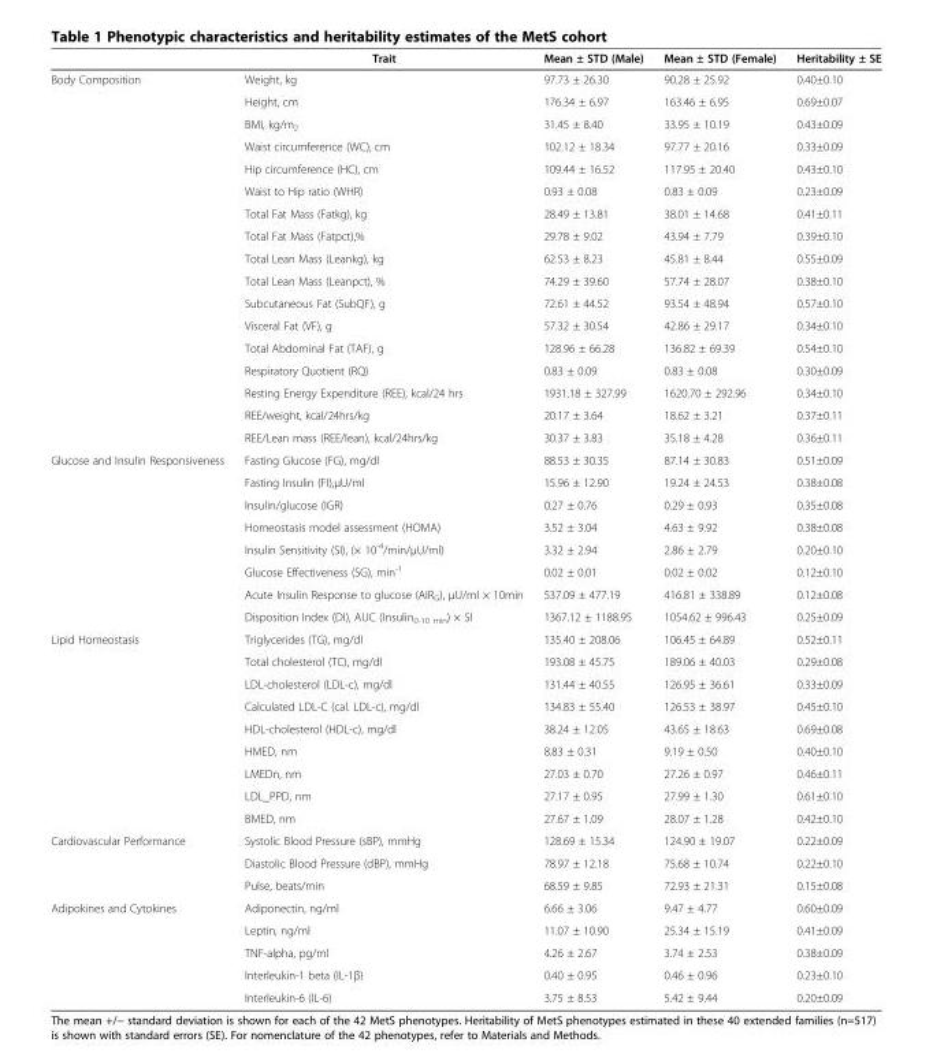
<table><thead><tr><td></td><td>Trait</td><td>Mean ± STD (Male)</td><td>Mean ± STD (Female)</td><td>Heritability ± SE</td></tr></thead><tbody><tr><td rowspan="17">Body Composition</td><td>Weight, kg</td><td>97.73 ± 26.30</td><td>90.28 ± 25.92</td><td>0.40±0.10</td></tr><tr><td>Height, cm</td><td>176.34 ± 6.97</td><td>163.46 ± 6.95</td><td>0.69±0.07</td></tr><tr><td>BMI, kg/m<sub>2</sub></td><td>31.45 ± 8.40</td><td>33.95 ± 10.19</td><td>0.43±0.09</td></tr><tr><td>Waist circumference (WC), cm</td><td>102.12 ± 18.34</td><td>97.77 ± 20.16</td><td>0.33±0.09</td></tr><tr><td>Hip circumference (HC), cm</td><td>109.44 ± 16.52</td><td>117.95 ± 20.40</td><td>0.43±0.10</td></tr><tr><td>Waist to Hip ratio (WHR)</td><td>0.93 ± 0.08</td><td>0.83 ± 0.09</td><td>0.23±0.09</td></tr><tr><td>Total Fat Mass (Fatkg), kg</td><td>28.49 ± 13.81</td><td>38.01 ± 14.68</td><td>0.41±0.11</td></tr><tr><td>Total Fat Mass (Fatpct),%</td><td>29.78 ± 9.02</td><td>43.94 ± 7.79</td><td>0.39±0.10</td></tr><tr><td>Total Lean Mass (Leankg), kg</td><td>62.53 ± 8.23</td><td>45.81 ± 8.44</td><td>0.55±0.09</td></tr><tr><td>Total Lean Mass (Leanpct), %</td><td>74.29 ± 39.60</td><td>57.74 ± 28.07</td><td>0.38±0.10</td></tr><tr><td>Subcutaneous Fat (SubQF), g</td><td>72.61 ± 44.52</td><td>93.54 ± 48.94</td><td>0.57±0.10</td></tr><tr><td>Visceral Fat (VF), g</td><td>57.32 ± 30.54</td><td>42.86 ± 29.17</td><td>0.34±0.10</td></tr><tr><td>Total Abdominal Fat (TAF), g</td><td>128.96 ± 66.28</td><td>136.82 ± 69.39</td><td>0.54±0.10</td></tr><tr><td>Respiratory Quotient (RQ)</td><td>0.83 ± 0.09</td><td>0.83 ± 0.08</td><td>0.30±0.09</td></tr><tr><td>Resting Energy Expenditure (REE), kcal/24 hrs</td><td>1931.18 ± 327.99</td><td>1620.70 ± 292.96</td><td>0.34±0.10</td></tr><tr><td>REE/weight, kcal/24hrs/kg</td><td>20.17 ± 3.64</td><td>18.62 ± 3.21</td><td>0.37±0.11</td></tr><tr><td>REE/Lean mass (REE/lean), kcal/24hrs/kg</td><td>30.37 ± 3.83</td><td>35.18 ± 4.28</td><td>0.36±0.11</td></tr><tr><td rowspan="8">Glucose and Insulin Responsiveness</td><td>Fasting Glucose (FG), mg/dl</td><td>88.53 ± 30.35</td><td>87.14 ± 30.83</td><td>0.51±0.09</td></tr><tr><td>Fasting Insulin (FI),μU/ml</td><td>15.96 ± 12.90</td><td>19.24 ± 24.53</td><td>0.38±0.08</td></tr><tr><td>Insulin/glucose (IGR)</td><td>0.27 ± 0.76</td><td>0.29 ± 0.93</td><td>0.35±0.08</td></tr><tr><td>Homeostasis model assessment (HOMA)</td><td>3.52 ± 3.04</td><td>4.63 ± 9.92</td><td>0.38±0.08</td></tr><tr><td>Insulin Sensitivity (SI), (× 10<sup>-4</sup>/min/μU/ml)</td><td>3.32 ± 2.94</td><td>2.86 ± 2.79</td><td>0.20±0.10</td></tr><tr><td>Glucose Effectiveness (SG), min<sup>-1</sup></td><td>0.02 ± 0.01</td><td>0.02 ± 0.02</td><td>0.12±0.10</td></tr><tr><td>Acute Insulin Response to glucose (AIR<sub>G</sub>), μU/ml × 10min</td><td>537.09 ± 477.19</td><td>416.81 ± 338.89</td><td>0.12±0.08</td></tr><tr><td>Disposition Index (DI), AUC (Insulin<sub>0-10 min</sub>) × SI</td><td>1367.12 ± 1188.95</td><td>1054.62 ± 996.43</td><td>0.25±0.09</td></tr><tr><td rowspan="9">Lipid Homeostasis</td><td>Triglycerides (TG), mg/dl</td><td>135.40 ± 208.06</td><td>106.45 ± 64.89</td><td>0.52±0.11</td></tr><tr><td>Total cholesterol (TC), mg/dl</td><td>193.08 ± 45.75</td><td>189.06 ± 40.03</td><td>0.29±0.08</td></tr><tr><td>LDL-cholesterol (LDL-c), mg/dl</td><td>131.44 ± 40.55</td><td>126.95 ± 36.61</td><td>0.33±0.09</td></tr><tr><td>Calculated LDL-C (cal. LDL-c), mg/dl</td><td>134.83 ± 55.40</td><td>126.53 ± 38.97</td><td>0.45±0.10</td></tr><tr><td>HDL-cholesterol (HDL-c), mg/dl</td><td>38.24 ± 12.05</td><td>43.65 ± 18.63</td><td>0.69±0.08</td></tr><tr><td>HMED, nm</td><td>8.83 ± 0.31</td><td>9.19 ± 0.50</td><td>0.40±0.10</td></tr><tr><td>LMEDn, nm</td><td>27.03 ± 0.70</td><td>27.26 ± 0.97</td><td>0.46±0.11</td></tr><tr><td>LDL_PPD, nm</td><td>27.17 ± 0.95</td><td>27.99 ± 1.30</td><td>0.61±0.10</td></tr><tr><td>BMED, nm</td><td>27.67 ± 1.09</td><td>28.07 ± 1.28</td><td>0.42±0.10</td></tr><tr><td rowspan="3">Cardiovascular Performance</td><td>Systolic Blood Pressure (sBP), mmHg</td><td>128.69 ± 15.34</td><td>124.90 ± 19.07</td><td>0.22±0.09</td></tr><tr><td>Diastolic Blood Pressure (dBP), mmHg</td><td>78.97 ± 12.18</td><td>75.68 ± 10.74</td><td>0.22±0.10</td></tr><tr><td>Pulse, beats/min</td><td>68.59 ± 9.85</td><td>72.93 ± 21.31</td><td>0.15±0.08</td></tr><tr><td rowspan="5">Adipokines and Cytokines</td><td>Adiponectin, ng/ml</td><td>6.66 ± 3.06</td><td>9.47 ± 4.77</td><td>0.60±0.09</td></tr><tr><td>Leptin, ng/ml</td><td>11.07 ± 10.90</td><td>25.34 ± 15.19</td><td>0.41±0.09</td></tr><tr><td>TNF-alpha, pg/ml</td><td>4.26 ± 2.67</td><td>3.74 ± 2.53</td><td>0.38±0.09</td></tr><tr><td>Interleukin-1 beta (IL-1β)</td><td>0.40 ± 0.95</td><td>0.46 ± 0.96</td><td>0.23±0.10</td></tr><tr><td>Interleukin-6 (IL-6)</td><td>3.75 ± 8.53</td><td>5.42 ± 9.44</td><td>0.20±0.09</td></tr></tbody></table>